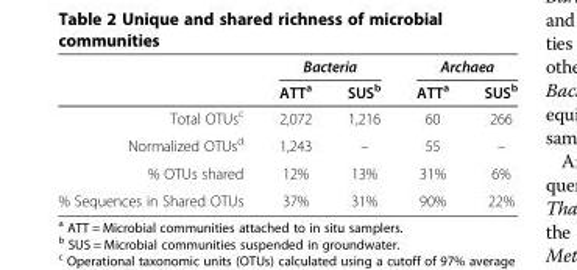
<table><thead><tr><td rowspan="2"></td><td colspan="2">Bacteria</td><td colspan="2">Archaea</td></tr><tr><td>ATT<sup>a</sup></td><td>SUS<sup>b</sup></td><td>ATT<sup>a</sup></td><td>SUS<sup>b</sup></td></tr></thead><tbody><tr><td>Total OTUs<sup>c</sup></td><td>2,072</td><td>1,216</td><td>60</td><td>266</td></tr><tr><td>Normalized OTUs<sup>d</sup></td><td>1,243</td><td>–</td><td>55</td><td>–</td></tr><tr><td>% OTUs shared</td><td>12%</td><td>13%</td><td>31%</td><td>6%</td></tr><tr><td>% Sequences in Shared OTUs</td><td>37%</td><td>31%</td><td>90%</td><td>22%</td></tr></tbody></table>